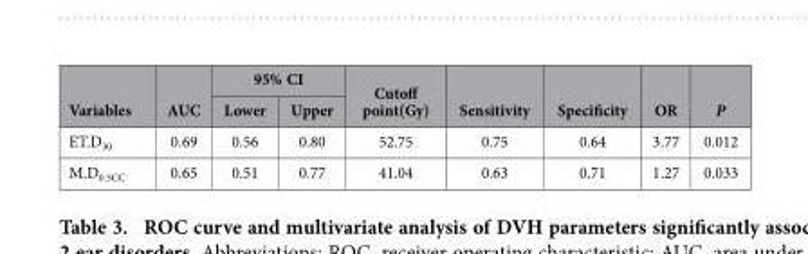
<table><thead><tr><td rowspan="2">Variables</td><td rowspan="2">AUC</td><td colspan="2">95% CI</td><td rowspan="2">Cutoff point(Gy)</td><td rowspan="2">Sensitivity</td><td rowspan="2">Specificity</td><td rowspan="2">OR</td><td rowspan="2">P</td></tr><tr><td>Lower</td><td>Upper</td></tr></thead><tbody><tr><td>ET.D<sub>30</sub></td><td>0.69</td><td>0.56</td><td>0.80</td><td>52.75</td><td>0.75</td><td>0.64</td><td>3.77</td><td>0.012</td></tr><tr><td>M.D<sub>0.5CC</sub></td><td>0.65</td><td>0.51</td><td>0.77</td><td>41.04</td><td>0.63</td><td>0.71</td><td>1.27</td><td>0.033</td></tr></tbody></table>